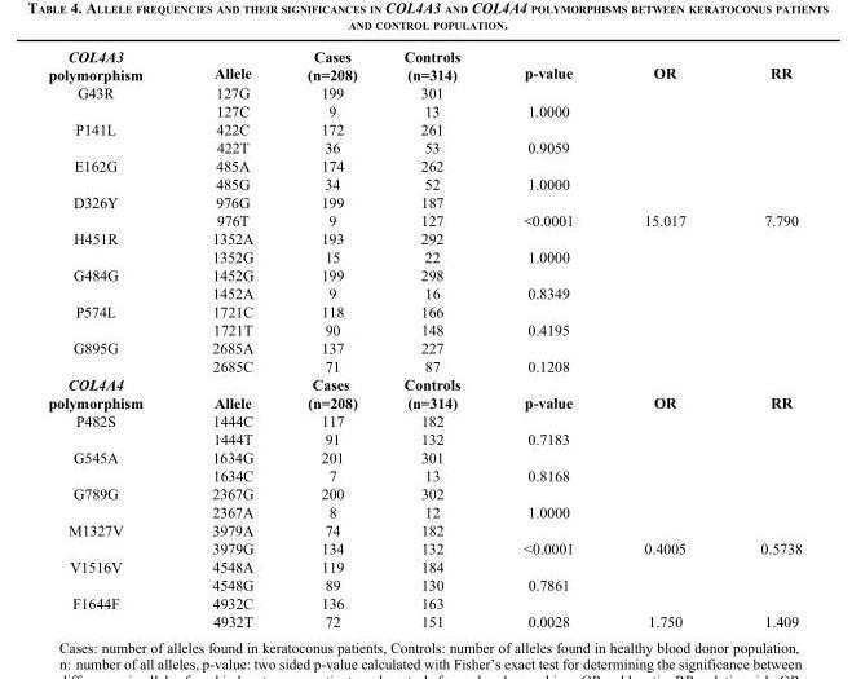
<table><thead><tr><td>COL4A3 polymorphism</td><td>Allele</td><td>Cases (n=208)</td><td>Controls (n=314)</td><td>p-value</td><td>OR</td><td>RR</td></tr></thead><tbody><tr><td rowspan="2">G43R</td><td>127G</td><td>199</td><td>301</td><td></td><td></td><td></td></tr><tr><td>127C</td><td>9</td><td>13</td><td>1.0000</td><td></td><td></td></tr><tr><td rowspan="2">P141L</td><td>422C</td><td>172</td><td>261</td><td></td><td></td><td></td></tr><tr><td>422T</td><td>36</td><td>53</td><td>0.9059</td><td></td><td></td></tr><tr><td rowspan="2">E162G</td><td>485A</td><td>174</td><td>262</td><td></td><td></td><td></td></tr><tr><td>485G</td><td>34</td><td>52</td><td>1.0000</td><td></td><td></td></tr><tr><td rowspan="2">D326Y</td><td>976G</td><td>199</td><td>187</td><td></td><td></td><td></td></tr><tr><td>976T</td><td>9</td><td>127</td><td>&lt;0.0001</td><td>15.017</td><td>7.790</td></tr><tr><td rowspan="2">H451R</td><td>1352A</td><td>193</td><td>292</td><td></td><td></td><td></td></tr><tr><td>1352G</td><td>15</td><td>22</td><td>1.0000</td><td></td><td></td></tr><tr><td rowspan="2">G484G</td><td>1452G</td><td>199</td><td>298</td><td></td><td></td><td></td></tr><tr><td>1452A</td><td>9</td><td>16</td><td>0.8349</td><td></td><td></td></tr><tr><td rowspan="2">P574L</td><td>1721C</td><td>118</td><td>166</td><td></td><td></td><td></td></tr><tr><td>1721T</td><td>90</td><td>148</td><td>0.4195</td><td></td><td></td></tr><tr><td rowspan="2">G895G</td><td>2685A</td><td>137</td><td>227</td><td></td><td></td><td></td></tr><tr><td>2685C</td><td>71</td><td>87</td><td>0.1208</td><td></td><td></td></tr><tr><td>COL4A4 polymorphism</td><td>Allele</td><td>Cases (n=208)</td><td>Controls (n=314)</td><td>p-value</td><td>OR</td><td>RR</td></tr><tr><td rowspan="2">P482S</td><td>1444C</td><td>117</td><td>182</td><td></td><td></td><td></td></tr><tr><td>1444T</td><td>91</td><td>132</td><td>0.7183</td><td></td><td></td></tr><tr><td rowspan="2">G545A</td><td>1634G</td><td>201</td><td>301</td><td></td><td></td><td></td></tr><tr><td>1634C</td><td>7</td><td>13</td><td>0.8168</td><td></td><td></td></tr><tr><td rowspan="2">G789G</td><td>2367G</td><td>200</td><td>302</td><td></td><td></td><td></td></tr><tr><td>2367A</td><td>8</td><td>12</td><td>1.0000</td><td></td><td></td></tr><tr><td rowspan="2">M1327V</td><td>3979A</td><td>74</td><td>182</td><td></td><td></td><td></td></tr><tr><td>3979G</td><td>134</td><td>132</td><td>&lt;0.0001</td><td>0.4005</td><td>0.5738</td></tr><tr><td rowspan="2">V1516V</td><td>4548A</td><td>119</td><td>184</td><td></td><td></td><td></td></tr><tr><td>4548G</td><td>89</td><td>130</td><td>0.7861</td><td></td><td></td></tr><tr><td rowspan="2">F1644F</td><td>4932C</td><td>136</td><td>163</td><td></td><td></td><td></td></tr><tr><td>4932T</td><td>72</td><td>151</td><td>0.0028</td><td>1.750</td><td>1.409</td></tr></tbody></table>